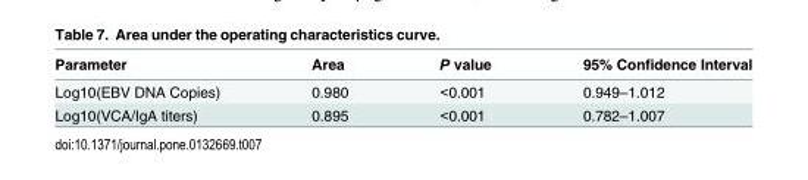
<table><thead><tr><td>Parameter</td><td>Area</td><td>P value</td><td>95% Confidence Interval</td></tr></thead><tbody><tr><td>Log10(EBV DNA Copies)</td><td>0.980</td><td>&lt;0.001</td><td>0.949–1.012</td></tr><tr><td>Log10(VCA/IgA titers)</td><td>0.895</td><td>&lt;0.001</td><td>0.782–1.007</td></tr></tbody></table>